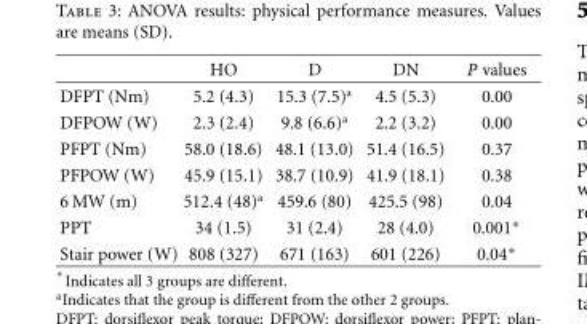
<table><thead><tr><td></td><td>HO</td><td>D</td><td>DN</td><td>P values</td></tr></thead><tbody><tr><td>DFPT (Nm)</td><td>5.2 (4.3)</td><td>15.3 (7.5)<sup>a</sup></td><td>4.5 (5.3)</td><td>0.00</td></tr><tr><td>DFPOW (W)</td><td>2.3 (2.4)</td><td>9.8 (6.6)<sup>a</sup></td><td>2.2 (3.2)</td><td>0.00</td></tr><tr><td>PFPT (Nm)</td><td>58.0 (18.6)</td><td>48.1 (13.0)</td><td>51.4 (16.5)</td><td>0.37</td></tr><tr><td>PFPOW (W)</td><td>45.9 (15.1)</td><td>38.7 (10.9)</td><td>41.9 (18.1)</td><td>0.38</td></tr><tr><td>6 MW (m)</td><td>512.4 (48)<sup>a</sup></td><td>459.6 (80)</td><td>425.5 (98)</td><td>0.04</td></tr><tr><td>PPT</td><td>34 (1.5)</td><td>31 (2.4)</td><td>28 (4.0)</td><td>0.001∗</td></tr><tr><td>Stair power (W)</td><td>808 (327)</td><td>671 (163)</td><td>601 (226)</td><td>0.04∗</td></tr></tbody></table>